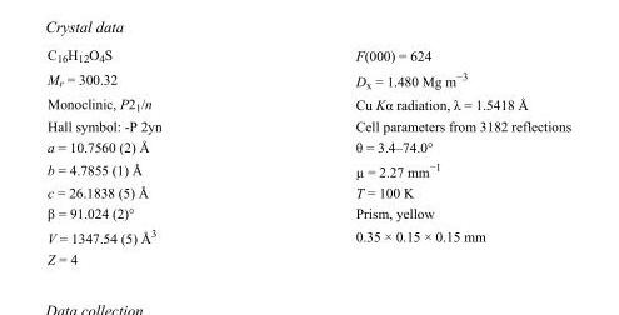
<table><tbody><tr><td>C<sub>16</sub>H<sub>12</sub>O<sub>4</sub>S</td><td>F(000) = 624</td></tr><tr><td>M<sub>r</sub> = 300.32</td><td>D<sub>x</sub> = 1.480 Mg m<sup>−3</sup></td></tr><tr><td>Monoclinic, P2<sub>1</sub>/n</td><td>Cu Kα radiation, λ = 1.5418 Å</td></tr><tr><td>Hall symbol: -P 2yn</td><td>Cell parameters from 3182 reflections</td></tr><tr><td>a = 10.7560 (2) Å</td><td>θ = 3.4–74.0°</td></tr><tr><td>b = 4.7855 (1) Å</td><td>µ = 2.27 mm<sup>−1</sup></td></tr><tr><td>c = 26.1838 (5) Å</td><td>T = 100 K</td></tr><tr><td>β = 91.024 (2)°</td><td>Prism, yellow</td></tr><tr><td>V = 1347.54 (5) Å<sup>3</sup></td><td>0.35 × 0.15 × 0.15 mm</td></tr><tr><td>Z = 4</td><td></td></tr></tbody></table>